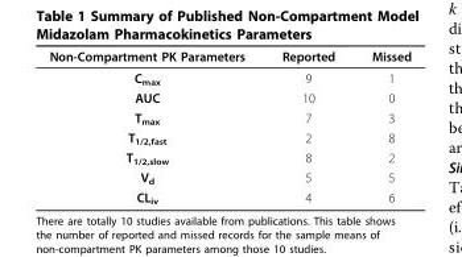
<table><thead><tr><td>Non-Compartment PK Parameters</td><td>Reported</td><td>Missed</td></tr></thead><tbody><tr><td>C<sub>max</sub></td><td>9</td><td>1</td></tr><tr><td>AUC</td><td>10</td><td>0</td></tr><tr><td>T<sub>max</sub></td><td>7</td><td>3</td></tr><tr><td>T<sub>1/2,fast</sub></td><td>2</td><td>8</td></tr><tr><td>T<sub>1/2,slow</sub></td><td>8</td><td>2</td></tr><tr><td>V<sub>d</sub></td><td>5</td><td>5</td></tr><tr><td>CL<sub>iv</sub></td><td>4</td><td>6</td></tr></tbody></table>